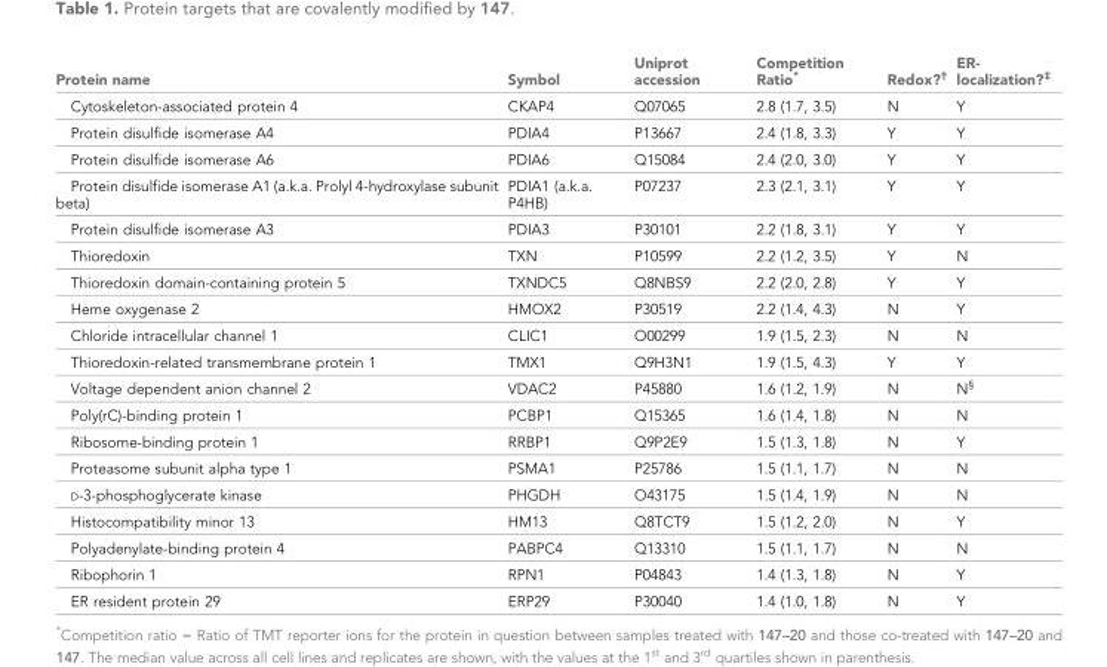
<table><thead><tr><td>Protein name</td><td>Symbol</td><td>Uniprot accession</td><td>Competition Ratio*</td><td>Redox?<sup>†</sup></td><td>ER- localization?<sup>‡</sup></td></tr></thead><tbody><tr><td>Cytoskeleton-associated protein 4</td><td>CKAP4</td><td>Q07065</td><td>2.8 (1.7, 3.5)</td><td>N</td><td>Y</td></tr><tr><td>Protein disulfide isomerase A4</td><td>PDIA4</td><td>P13667</td><td>2.4 (1.8, 3.3)</td><td>Y</td><td>Y</td></tr><tr><td>Protein disulfide isomerase A6</td><td>PDIA6</td><td>Q15084</td><td>2.4 (2.0, 3.0)</td><td>Y</td><td>Y</td></tr><tr><td>Protein disulfide isomerase A1 (a.k.a. Prolyl 4-hydroxylase subunit beta)</td><td>PDIA1 (a.k.a. P4HB)</td><td>P07237</td><td>2.3 (2.1, 3.1)</td><td>Y</td><td>Y</td></tr><tr><td>Protein disulfide isomerase A3</td><td>PDIA3</td><td>P30101</td><td>2.2 (1.8, 3.1)</td><td>Y</td><td>Y</td></tr><tr><td>Thioredoxin</td><td>TXN</td><td>P10599</td><td>2.2 (1.2, 3.5)</td><td>Y</td><td>N</td></tr><tr><td>Thioredoxin domain-containing protein 5</td><td>TXNDC5</td><td>Q8NBS9</td><td>2.2 (2.0, 2.8)</td><td>Y</td><td>Y</td></tr><tr><td>Heme oxygenase 2</td><td>HMOX2</td><td>P30519</td><td>2.2 (1.4, 4.3)</td><td>N</td><td>Y</td></tr><tr><td>Chloride intracellular channel 1</td><td>CLIC1</td><td>O00299</td><td>1.9 (1.5, 2.3)</td><td>N</td><td>N</td></tr><tr><td>Thioredoxin-related transmembrane protein 1</td><td>TMX1</td><td>Q9H3N1</td><td>1.9 (1.5, 4.3)</td><td>Y</td><td>Y</td></tr><tr><td>Voltage dependent anion channel 2</td><td>VDAC2</td><td>P45880</td><td>1.6 (1.2, 1.9)</td><td>N</td><td>N<sup>§</sup></td></tr><tr><td>Poly(rC)-binding protein 1</td><td>PCBP1</td><td>Q15365</td><td>1.6 (1.4, 1.8)</td><td>N</td><td>N</td></tr><tr><td>Ribosome-binding protein 1</td><td>RRBP1</td><td>Q9P2E9</td><td>1.5 (1.3, 1.8)</td><td>N</td><td>Y</td></tr><tr><td>Proteasome subunit alpha type 1</td><td>PSMA1</td><td>P25786</td><td>1.5 (1.1, 1.7)</td><td>N</td><td>N</td></tr><tr><td>D-3-phosphoglycerate kinase</td><td>PHGDH</td><td>O43175</td><td>1.5 (1.4, 1.9)</td><td>N</td><td>N</td></tr><tr><td>Histocompatibility minor 13</td><td>HM13</td><td>Q8TCT9</td><td>1.5 (1.2, 2.0)</td><td>N</td><td>Y</td></tr><tr><td>Polyadenylate-binding protein 4</td><td>PABPC4</td><td>Q13310</td><td>1.5 (1.1, 1.7)</td><td>N</td><td>N</td></tr><tr><td>Ribophorin 1</td><td>RPN1</td><td>P04843</td><td>1.4 (1.3, 1.8)</td><td>N</td><td>Y</td></tr><tr><td>ER resident protein 29</td><td>ERP29</td><td>P30040</td><td>1.4 (1.0, 1.8)</td><td>N</td><td>Y</td></tr></tbody></table>